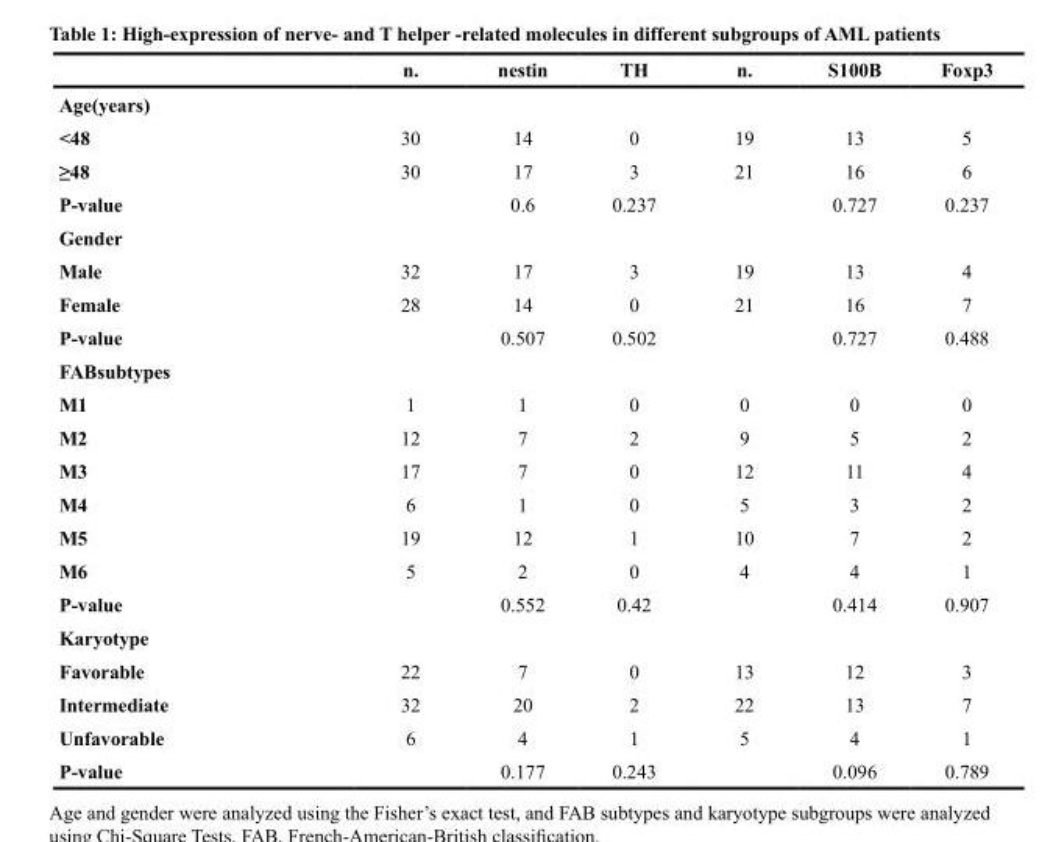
<table><thead><tr><td></td><td>n.</td><td>nestin</td><td>TH</td><td>n.</td><td>S100B</td><td>Foxp3</td></tr></thead><tbody><tr><td colspan="7">Age(years)</td></tr><tr><td>&lt;48</td><td>30</td><td>14</td><td>0</td><td>19</td><td>13</td><td>5</td></tr><tr><td>≥48</td><td>30</td><td>17</td><td>3</td><td>21</td><td>16</td><td>6</td></tr><tr><td>P-value</td><td></td><td>0.6</td><td>0.237</td><td></td><td>0.727</td><td>0.237</td></tr><tr><td colspan="7">Gender</td></tr><tr><td>Male</td><td>32</td><td>17</td><td>3</td><td>19</td><td>13</td><td>4</td></tr><tr><td>Female</td><td>28</td><td>14</td><td>0</td><td>21</td><td>16</td><td>7</td></tr><tr><td>P-value</td><td></td><td>0.507</td><td>0.502</td><td></td><td>0.727</td><td>0.488</td></tr><tr><td colspan="7">FABsubtypes</td></tr><tr><td>M1</td><td>1</td><td>1</td><td>0</td><td>0</td><td>0</td><td>0</td></tr><tr><td>M2</td><td>12</td><td>7</td><td>2</td><td>9</td><td>5</td><td>2</td></tr><tr><td>M3</td><td>17</td><td>7</td><td>0</td><td>12</td><td>11</td><td>4</td></tr><tr><td>M4</td><td>6</td><td>1</td><td>0</td><td>5</td><td>3</td><td>2</td></tr><tr><td>M5</td><td>19</td><td>12</td><td>1</td><td>10</td><td>7</td><td>2</td></tr><tr><td>M6</td><td>5</td><td>2</td><td>0</td><td>4</td><td>4</td><td>1</td></tr><tr><td>P-value</td><td></td><td>0.552</td><td>0.42</td><td></td><td>0.414</td><td>0.907</td></tr><tr><td colspan="7">Karyotype</td></tr><tr><td>Favorable</td><td>22</td><td>7</td><td>0</td><td>13</td><td>12</td><td>3</td></tr><tr><td>Intermediate</td><td>32</td><td>20</td><td>2</td><td>22</td><td>13</td><td>7</td></tr><tr><td>Unfavorable</td><td>6</td><td>4</td><td>1</td><td>5</td><td>4</td><td>1</td></tr><tr><td>P-value</td><td></td><td>0.177</td><td>0.243</td><td></td><td>0.096</td><td>0.789</td></tr></tbody></table>